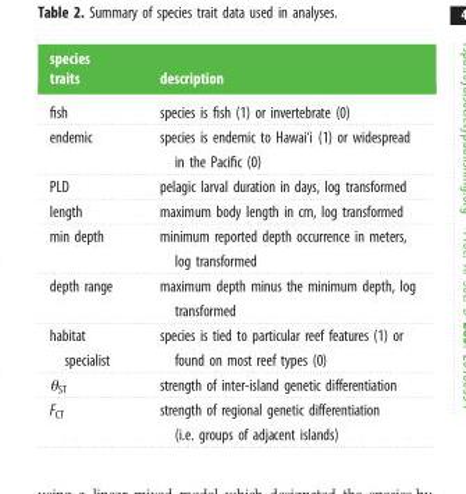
<table><thead><tr><td>species traits</td><td>description</td></tr></thead><tbody><tr><td>fish</td><td>species is fish (1) or invertebrate (0)</td></tr><tr><td>endemic</td><td>species is endemic to Hawai‘i (1) or widespread in the Pacific (0)</td></tr><tr><td>PLD</td><td>pelagic larval duration in days, log transformed</td></tr><tr><td>length</td><td>maximum body length in cm, log transformed</td></tr><tr><td>min depth</td><td>minimum reported depth occurrence in meters, log transformed</td></tr><tr><td>depth range</td><td>maximum depth minus the minimum depth, log transformed</td></tr><tr><td>habitat specialist</td><td>species is tied to particular reef features (1) or found on most reef types (0)</td></tr><tr><td>θ<sub>ST</sub></td><td>strength of inter-island genetic differentiation</td></tr><tr><td>F<sub>CT</sub></td><td>strength of regional genetic differentiation (i.e. groups of adjacent islands)</td></tr></tbody></table>